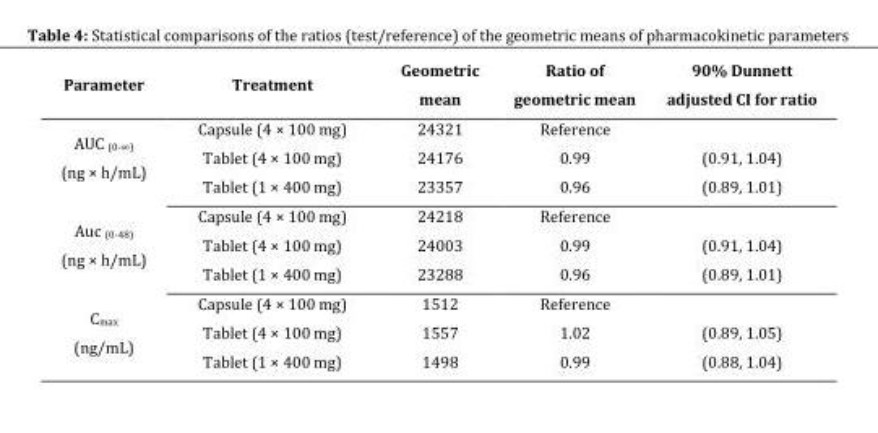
<table><thead><tr><td>Parameter</td><td>Treatment</td><td>Geometric mean</td><td>Ratio of geometric mean</td><td>90% Dunnett adjusted CI for ratio</td></tr></thead><tbody><tr><td rowspan="3">AUC <sub>(0-∞)</sub> (ng × h/mL)</td><td>Capsule (4 × 100 mg)</td><td>24321</td><td>Reference</td><td></td></tr><tr><td>Tablet (4 × 100 mg)</td><td>24176</td><td>0.99</td><td>(0.91, 1.04)</td></tr><tr><td>Tablet (1 × 400 mg)</td><td>23357</td><td>0.96</td><td>(0.89, 1.01)</td></tr><tr><td rowspan="3">Auc <sub>(0-48)</sub> (ng × h/mL)</td><td>Capsule (4 × 100 mg)</td><td>24218</td><td>Reference</td><td></td></tr><tr><td>Tablet (4 × 100 mg)</td><td>24003</td><td>0.99</td><td>(0.91, 1.04)</td></tr><tr><td>Tablet (1 × 400 mg)</td><td>23288</td><td>0.96</td><td>(0.89, 1.01)</td></tr><tr><td rowspan="3">C<sub>max</sub> (ng/mL)</td><td>Capsule (4 × 100 mg)</td><td>1512</td><td>Reference</td><td></td></tr><tr><td>Tablet (4 × 100 mg)</td><td>1557</td><td>1.02</td><td>(0.89, 1.05)</td></tr><tr><td>Tablet (1 × 400 mg)</td><td>1498</td><td>0.99</td><td>(0.88, 1.04)</td></tr></tbody></table>